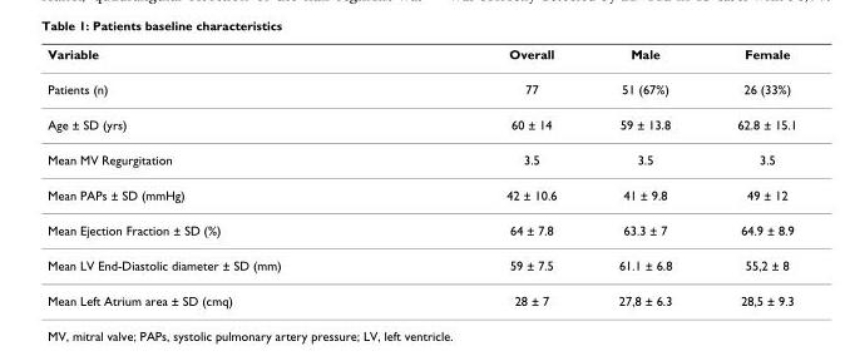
<table><thead><tr><td>Variable</td><td>Overall</td><td>Male</td><td>Female</td></tr></thead><tbody><tr><td>Patients (n)</td><td>77</td><td>51 (67%)</td><td>26 (33%)</td></tr><tr><td>Age ± SD (yrs)</td><td>60 ± 14</td><td>59 ± 13.8</td><td>62.8 ± 15.1</td></tr><tr><td>Mean MV Regurgitation</td><td>3.5</td><td>3.5</td><td>3.5</td></tr><tr><td>Mean PAPs ± SD (mmHg)</td><td>42 ± 10.6</td><td>41 ± 9.8</td><td>49 ± 12</td></tr><tr><td>Mean Ejection Fraction ± SD (%)</td><td>64 ± 7.8</td><td>63.3 ± 7</td><td>64.9 ± 8.9</td></tr><tr><td>Mean LV End-Diastolic diameter ± SD (mm)</td><td>59 ± 7.5</td><td>61.1 ± 6.8</td><td>55,2 ± 8</td></tr><tr><td>Mean Left Atrium area ± SD (cmq)</td><td>28 ± 7</td><td>27,8 ± 6.3</td><td>28,5 ± 9.3</td></tr></tbody></table>